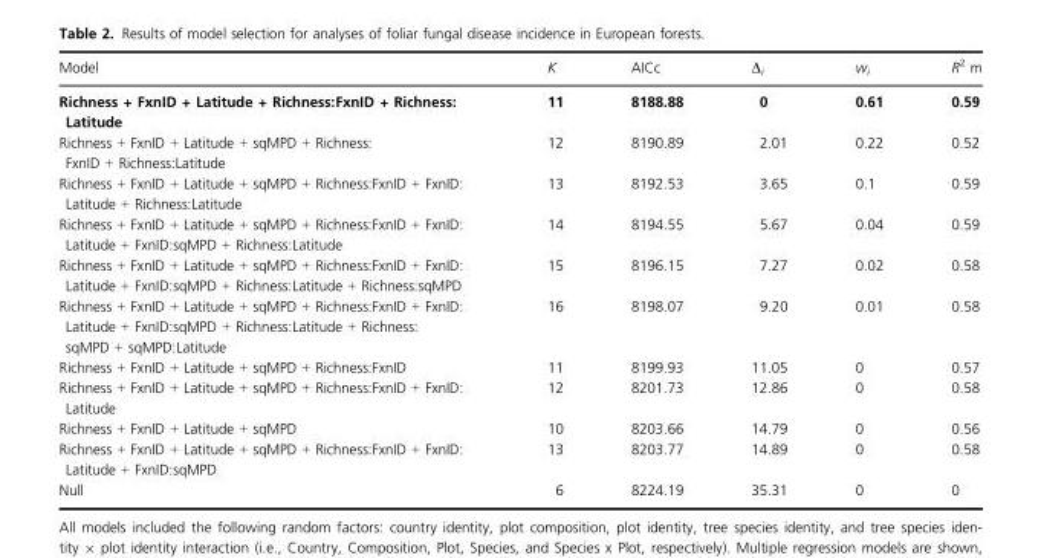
<table><thead><tr><td>Model</td><td>K</td><td>AICc</td><td>Δ<sub>i</sub></td><td>w<sub>i</sub></td><td>R<sup>2</sup> m</td></tr></thead><tbody><tr><td>Richness + FxnID + Latitude + Richness:FxnID + Richness: Latitude</td><td>11</td><td>8188.88</td><td>0</td><td>0.61</td><td>0.59</td></tr><tr><td>Richness + FxnID + Latitude + sqMPD + Richness: FxnID + Richness:Latitude</td><td>12</td><td>8190.89</td><td>2.01</td><td>0.22</td><td>0.52</td></tr><tr><td>Richness + FxnID + Latitude + sqMPD + Richness:FxnID + FxnID: Latitude + Richness:Latitude</td><td>13</td><td>8192.53</td><td>3.65</td><td>0.1</td><td>0.59</td></tr><tr><td>Richness + FxnID + Latitude + sqMPD + Richness:FxnID + FxnID: Latitude + FxnID:sqMPD + Richness:Latitude</td><td>14</td><td>8194.55</td><td>5.67</td><td>0.04</td><td>0.59</td></tr><tr><td>Richness + FxnID + Latitude + sqMPD + Richness:FxnID + FxnID: Latitude + FxnID:sqMPD + Richness:Latitude + Richness:sqMPD</td><td>15</td><td>8196.15</td><td>7.27</td><td>0.02</td><td>0.58</td></tr><tr><td>Richness + FxnID + Latitude + sqMPD + Richness:FxnID + FxnID: Latitude + FxnID:sqMPD + Richness:Latitude + Richness: sqMPD + sqMPD:Latitude</td><td>16</td><td>8198.07</td><td>9.20</td><td>0.01</td><td>0.58</td></tr><tr><td>Richness + FxnID + Latitude + sqMPD + Richness:FxnID</td><td>11</td><td>8199.93</td><td>11.05</td><td>0</td><td>0.57</td></tr><tr><td>Richness + FxnID + Latitude + sqMPD + Richness:FxnID + FxnID: Latitude</td><td>12</td><td>8201.73</td><td>12.86</td><td>0</td><td>0.58</td></tr><tr><td>Richness + FxnID + Latitude + sqMPD</td><td>10</td><td>8203.66</td><td>14.79</td><td>0</td><td>0.56</td></tr><tr><td>Richness + FxnID + Latitude + sqMPD + Richness:FxnID + FxnID: Latitude + FxnID:sqMPD</td><td>13</td><td>8203.77</td><td>14.89</td><td>0</td><td>0.58</td></tr><tr><td>Null</td><td>6</td><td>8224.19</td><td>35.31</td><td>0</td><td>0</td></tr></tbody></table>